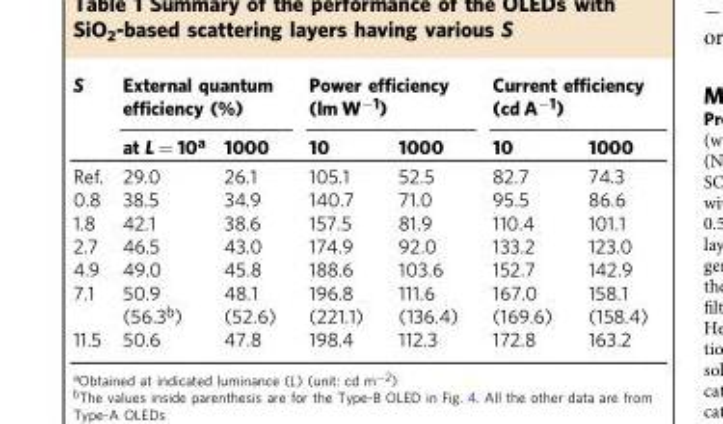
<table><thead><tr><td rowspan="2">S</td><td colspan="2">External quantum efficiency (%)</td><td colspan="2">Power efficiency (lm W<sup>−1</sup>)</td><td colspan="2">Current efficiency (cd A<sup>−1</sup>)</td></tr><tr><td>at L = 10<sup>a</sup></td><td>1000</td><td>10</td><td>1000</td><td>10</td><td>1000</td></tr></thead><tbody><tr><td>Ref.</td><td>29.0</td><td>26.1</td><td>105.1</td><td>52.5</td><td>82.7</td><td>74.3</td></tr><tr><td>0.8</td><td>38.5</td><td>34.9</td><td>140.7</td><td>71.0</td><td>95.5</td><td>86.6</td></tr><tr><td>1.8</td><td>42.1</td><td>38.6</td><td>157.5</td><td>81.9</td><td>110.4</td><td>101.1</td></tr><tr><td>2.7</td><td>46.5</td><td>43.0</td><td>174.9</td><td>92.0</td><td>133.2</td><td>123.0</td></tr><tr><td>4.9</td><td>49.0</td><td>45.8</td><td>188.6</td><td>103.6</td><td>152.7</td><td>142.9</td></tr><tr><td>7.1</td><td>50.9 (56.3<sup>b</sup>)</td><td>48.1 (52.6)</td><td>196.8 (221.1)</td><td>111.6 (136.4)</td><td>167.0 (169.6)</td><td>158.1 (158.4)</td></tr><tr><td>11.5</td><td>50.6</td><td>47.8</td><td>198.4</td><td>112.3</td><td>172.8</td><td>163.2</td></tr></tbody></table>